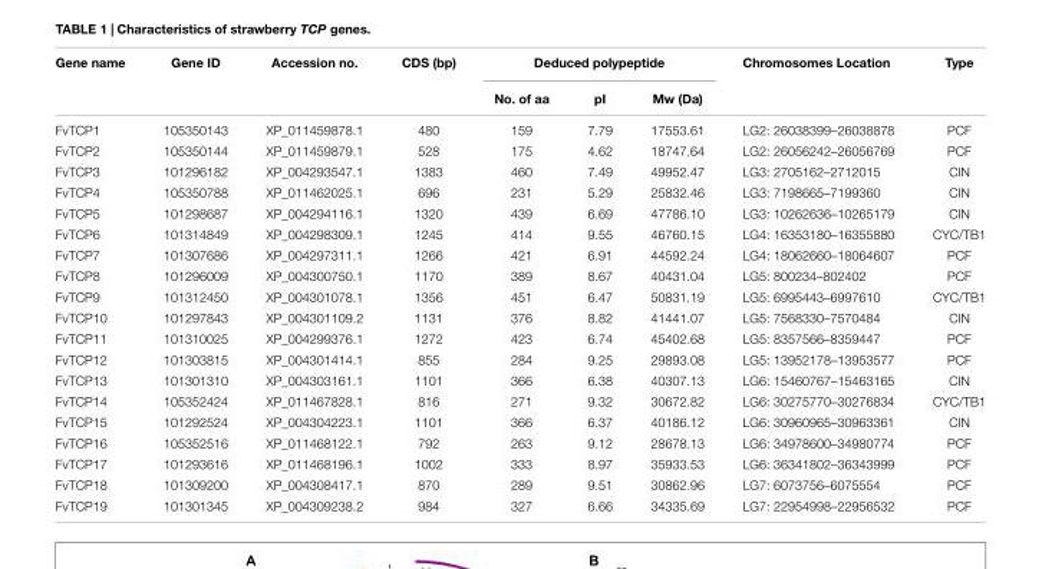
<table><thead><tr><td rowspan="2">Gene name</td><td rowspan="2">Gene ID</td><td rowspan="2">Accession no.</td><td rowspan="2">CDS (bp)</td><td colspan="3">Deduced polypeptide</td><td rowspan="2">Chromosomes Location</td><td rowspan="2">Type</td></tr><tr><td>No. of aa</td><td>pI</td><td>Mw (Da)</td></tr></thead><tbody><tr><td>FvTCP1</td><td>105350143</td><td>XP_011459878.1</td><td>480</td><td>159</td><td>7.79</td><td>17553.61</td><td>LG2: 26038399–26038878</td><td>PCF</td></tr><tr><td>FvTCP2</td><td>105350144</td><td>XP_011459879.1</td><td>528</td><td>175</td><td>4.62</td><td>18747.64</td><td>LG2: 26056242–26056769</td><td>PCF</td></tr><tr><td>FvTCP3</td><td>101296182</td><td>XP_004293547.1</td><td>1383</td><td>460</td><td>7.49</td><td>49952.47</td><td>LG3: 2705162–2712015</td><td>CIN</td></tr><tr><td>FvTCP4</td><td>105350788</td><td>XP_011462025.1</td><td>696</td><td>231</td><td>5.29</td><td>25832.46</td><td>LG3: 7198665–7199360</td><td>CIN</td></tr><tr><td>FvTCP5</td><td>101298687</td><td>XP_004294116.1</td><td>1320</td><td>439</td><td>6.69</td><td>47786.10</td><td>LG3: 10262636–10265179</td><td>CIN</td></tr><tr><td>FvTCP6</td><td>101314849</td><td>XP_004298309.1</td><td>1245</td><td>414</td><td>9.55</td><td>46760.15</td><td>LG4: 16353180–16355880</td><td>CYC/TB1</td></tr><tr><td>FvTCP7</td><td>101307686</td><td>XP_004297311.1</td><td>1266</td><td>421</td><td>6.91</td><td>44592.24</td><td>LG4: 18062660–18064607</td><td>PCF</td></tr><tr><td>FvTCP8</td><td>101296009</td><td>XP_004300750.1</td><td>1170</td><td>389</td><td>8.67</td><td>40431.04</td><td>LG5: 800234–802402</td><td>PCF</td></tr><tr><td>FvTCP9</td><td>101312450</td><td>XP_004301078.1</td><td>1356</td><td>451</td><td>6.47</td><td>50831.19</td><td>LG5: 6995443–6997610</td><td>CYC/TB1</td></tr><tr><td>FvTCP10</td><td>101297843</td><td>XP_004301109.2</td><td>1131</td><td>376</td><td>8.82</td><td>41441.07</td><td>LG5: 7568330–7570484</td><td>CIN</td></tr><tr><td>FvTCP11</td><td>101310025</td><td>XP_004299376.1</td><td>1272</td><td>423</td><td>6.74</td><td>45402.68</td><td>LG5: 8357566–8359447</td><td>PCF</td></tr><tr><td>FvTCP12</td><td>101303815</td><td>XP_004301414.1</td><td>855</td><td>284</td><td>9.25</td><td>29893.08</td><td>LG5: 13952178–13953577</td><td>PCF</td></tr><tr><td>FvTCP13</td><td>101301310</td><td>XP_004303161.1</td><td>1101</td><td>366</td><td>6.38</td><td>40307.13</td><td>LG6: 15460767–15463165</td><td>CIN</td></tr><tr><td>FvTCP14</td><td>105352424</td><td>XP_011467828.1</td><td>816</td><td>271</td><td>9.32</td><td>30672.82</td><td>LG6: 30275770–30276834</td><td>CYC/TB1</td></tr><tr><td>FvTCP15</td><td>101292524</td><td>XP_004304223.1</td><td>1101</td><td>366</td><td>6.37</td><td>40186.12</td><td>LG6: 30960965–30963361</td><td>CIN</td></tr><tr><td>FvTCP16</td><td>105352516</td><td>XP_011468122.1</td><td>792</td><td>263</td><td>9.12</td><td>28678.13</td><td>LG6: 34978600–34980774</td><td>PCF</td></tr><tr><td>FvTCP17</td><td>101293616</td><td>XP_011468196.1</td><td>1002</td><td>333</td><td>8.97</td><td>35933.53</td><td>LG6: 36341802–36343999</td><td>PCF</td></tr><tr><td>FvTCP18</td><td>101309200</td><td>XP_004308417.1</td><td>870</td><td>289</td><td>9.51</td><td>30862.96</td><td>LG7: 6073756–6075554</td><td>PCF</td></tr><tr><td>FvTCP19</td><td>101301345</td><td>XP_004309238.2</td><td>984</td><td>327</td><td>6.66</td><td>34335.69</td><td>LG7: 22954998–22956532</td><td>PCF</td></tr></tbody></table>